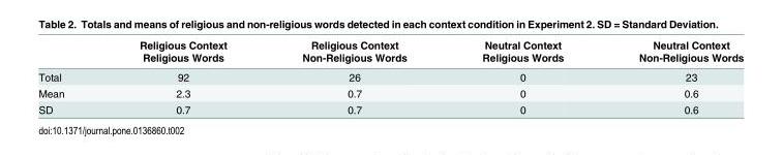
<table><thead><tr><td rowspan="2"></td><td rowspan="2">Religious Context Religious Words</td><td rowspan="2">Religious Context Non-Religious Words</td><td rowspan="2">Neutral Context Religious Words</td><td rowspan="2">Neutral Context Non-Religious Words</td></tr><tr></tr></thead><tbody><tr><td>Total</td><td>92</td><td>26</td><td>0</td><td>23</td></tr><tr><td>Mean</td><td>2.3</td><td>0.7</td><td>0</td><td>0.6</td></tr><tr><td>SD</td><td>0.7</td><td>0.7</td><td>0</td><td>0.6</td></tr></tbody></table>